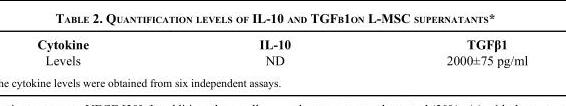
<table><thead><tr><td>Cytokine</td><td>IL-10</td><td>TGFβ1</td></tr></thead><tbody><tr><td>Levels</td><td>ND</td><td>2000±75 pg/ml</td></tr></tbody></table>